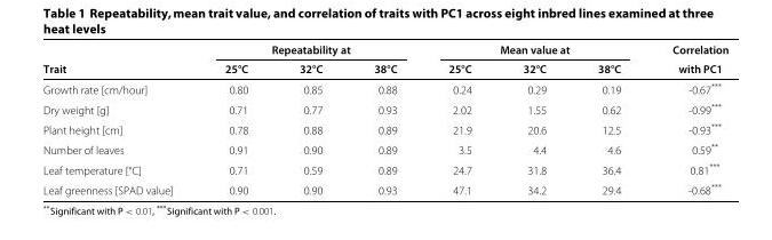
<table><thead><tr><td rowspan="2">Trait</td><td colspan="3">Repeatability at</td><td colspan="3">Mean value at</td><td rowspan="2">Correlation with PC1</td></tr><tr><td>25°C</td><td>32°C</td><td>38°C</td><td>25°C</td><td>32°C</td><td>38°C</td></tr></thead><tbody><tr><td>Growth rate [cm/hour]</td><td>0.80</td><td>0.85</td><td>0.88</td><td>0.24</td><td>0.29</td><td>0.19</td><td>-0.67***</td></tr><tr><td>Dry weight [g]</td><td>0.71</td><td>0.77</td><td>0.93</td><td>2.02</td><td>1.55</td><td>0.62</td><td>-0.99***</td></tr><tr><td>Plant height [cm]</td><td>0.78</td><td>0.88</td><td>0.89</td><td>21.9</td><td>20.6</td><td>12.5</td><td>-0.93***</td></tr><tr><td>Number of leaves</td><td>0.91</td><td>0.90</td><td>0.89</td><td>3.5</td><td>4.4</td><td>4.6</td><td>0.59**</td></tr><tr><td>Leaf temperature [°C]</td><td>0.71</td><td>0.59</td><td>0.89</td><td>24.7</td><td>31.8</td><td>36.4</td><td>0.81***</td></tr><tr><td>Leaf greenness [SPAD value]</td><td>0.90</td><td>0.90</td><td>0.93</td><td>47.1</td><td>34.2</td><td>29.4</td><td>-0.68***</td></tr></tbody></table>